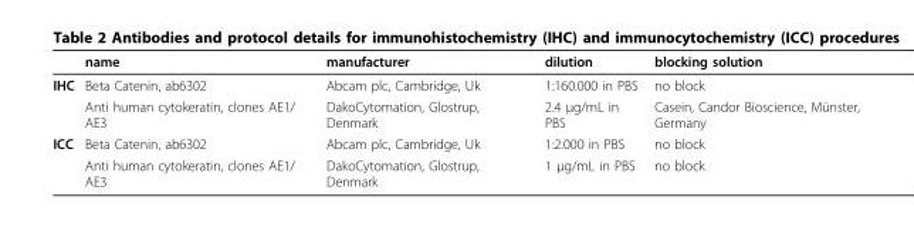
<table><thead><tr><td></td><td>name</td><td>manufacturer</td><td>dilution</td><td>blocking solution</td></tr></thead><tbody><tr><td rowspan="2">IHC</td><td>Beta Catenin, ab6302</td><td>Abcam plc, Cambridge, Uk</td><td>1:160.000 in PBS</td><td>no block</td></tr><tr><td>Anti human cytokeratin, clones AE1/ AE3</td><td>DakoCytomation, Glostrup, Denmark</td><td>2.4 μg/mL in PBS</td><td>Casein, Candor Bioscience, Münster, Germany</td></tr><tr><td rowspan="2">ICC</td><td>Beta Catenin, ab6302</td><td>Abcam plc, Cambridge, Uk</td><td>1:2.000 in PBS</td><td>no block</td></tr><tr><td>Anti human cytokeratin, clones AE1/ AE3</td><td>DakoCytomation, Glostrup, Denmark</td><td>1 μg/mL in PBS</td><td>no block</td></tr></tbody></table>